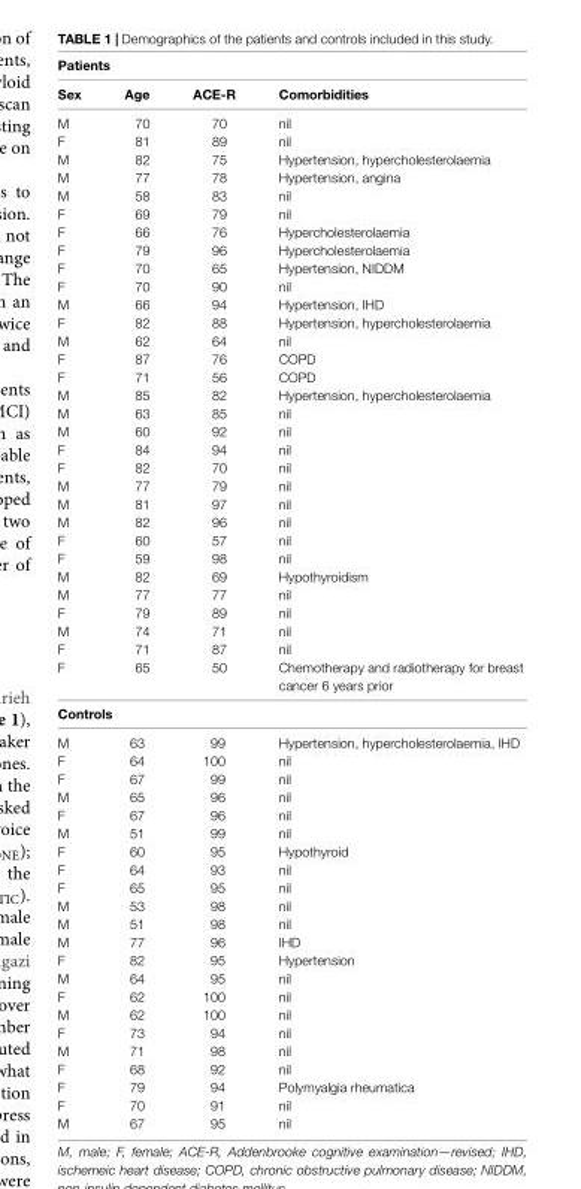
<table><thead><tr><td rowspan="2">Patients Sex</td><td rowspan="2">Age</td><td rowspan="2">ACE-R</td><td rowspan="2">Comorbidities</td></tr><tr></tr></thead><tbody><tr><td>M</td><td>70</td><td>70</td><td>nil</td></tr><tr><td>F</td><td>81</td><td>89</td><td>nil</td></tr><tr><td>M</td><td>82</td><td>75</td><td>Hypertension, hypercholesterolaemia</td></tr><tr><td>M</td><td>77</td><td>78</td><td>Hypertension, angina</td></tr><tr><td>M</td><td>58</td><td>83</td><td>nil</td></tr><tr><td>F</td><td>69</td><td>79</td><td>nil</td></tr><tr><td>F</td><td>66</td><td>76</td><td>Hypercholesterolaemia</td></tr><tr><td>F</td><td>79</td><td>96</td><td>Hypercholesterolaemia</td></tr><tr><td>F</td><td>70</td><td>65</td><td>Hypertension, NIDDM</td></tr><tr><td>F</td><td>70</td><td>90</td><td>nil</td></tr><tr><td>M</td><td>66</td><td>94</td><td>Hypertension, IHD</td></tr><tr><td>F</td><td>82</td><td>88</td><td>Hypertension, hypercholesterolaemia</td></tr><tr><td>M</td><td>62</td><td>64</td><td>nil</td></tr><tr><td>F</td><td>87</td><td>76</td><td>COPD</td></tr><tr><td>F</td><td>71</td><td>56</td><td>COPD</td></tr><tr><td>M</td><td>85</td><td>82</td><td>Hypertension, hypercholesterolaemia</td></tr><tr><td>M</td><td>63</td><td>85</td><td>nil</td></tr><tr><td>M</td><td>60</td><td>92</td><td>nil</td></tr><tr><td>F</td><td>84</td><td>94</td><td>nil</td></tr><tr><td>F</td><td>82</td><td>70</td><td>nil</td></tr><tr><td>M</td><td>77</td><td>79</td><td>nil</td></tr><tr><td>M</td><td>81</td><td>97</td><td>nil</td></tr><tr><td>M</td><td>82</td><td>96</td><td>nil</td></tr><tr><td>F</td><td>60</td><td>57</td><td>nil</td></tr><tr><td>F</td><td>59</td><td>98</td><td>nil</td></tr><tr><td>M</td><td>82</td><td>69</td><td>Hypothyroidism</td></tr><tr><td>M</td><td>77</td><td>77</td><td>nil</td></tr><tr><td>F</td><td>79</td><td>89</td><td>nil</td></tr><tr><td>M</td><td>74</td><td>71</td><td>nil</td></tr><tr><td>F</td><td>71</td><td>87</td><td>nil</td></tr><tr><td>F</td><td>65</td><td>50</td><td>Chemotherapy and radiotherapy for breast cancer 6 years prior</td></tr><tr><td colspan="4">Controls</td></tr><tr><td>M</td><td>63</td><td>99</td><td>Hypertension, hypercholesterolaemia, IHD</td></tr><tr><td>F</td><td>64</td><td>100</td><td>nil</td></tr><tr><td>F</td><td>67</td><td>99</td><td>nil</td></tr><tr><td>M</td><td>65</td><td>96</td><td>nil</td></tr><tr><td>F</td><td>67</td><td>96</td><td>nil</td></tr><tr><td>M</td><td>51</td><td>99</td><td>nil</td></tr><tr><td>F</td><td>60</td><td>95</td><td>Hypothyroid</td></tr><tr><td>F</td><td>64</td><td>93</td><td>nil</td></tr><tr><td>F</td><td>65</td><td>95</td><td>nil</td></tr><tr><td>M</td><td>53</td><td>98</td><td>nil</td></tr><tr><td>M</td><td>51</td><td>98</td><td>nil</td></tr><tr><td>M</td><td>77</td><td>96</td><td>IHD</td></tr><tr><td>F</td><td>82</td><td>95</td><td>Hypertension</td></tr><tr><td>M</td><td>64</td><td>95</td><td>nil</td></tr><tr><td>F</td><td>62</td><td>100</td><td>nil</td></tr><tr><td>M</td><td>62</td><td>100</td><td>nil</td></tr><tr><td>F</td><td>73</td><td>94</td><td>nil</td></tr><tr><td>M</td><td>71</td><td>98</td><td>nil</td></tr><tr><td>F</td><td>68</td><td>92</td><td>nil</td></tr><tr><td>F</td><td>79</td><td>94</td><td>Polymyalgia rheumatica</td></tr><tr><td>F</td><td>70</td><td>91</td><td>nil</td></tr><tr><td>M</td><td>67</td><td>95</td><td>nil</td></tr></tbody></table>